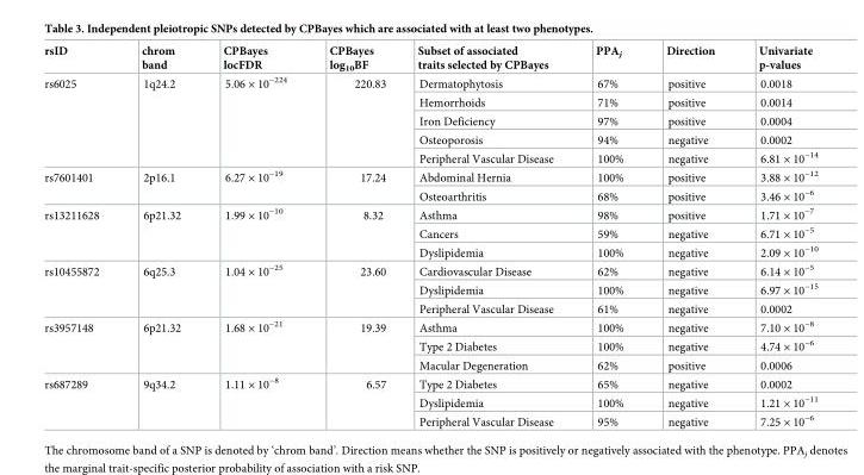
<table><thead><tr><td>rsID</td><td>chrom band</td><td>CPBayes locFDR</td><td>CPBayes log<sub>10</sub>BF</td><td>Subset of associated traits selected by CPBayes</td><td>PPA<sub>j</sub></td><td>Direction</td><td>Univariate p-values</td></tr></thead><tbody><tr><td rowspan="5">rs6025</td><td rowspan="5">1q24.2</td><td rowspan="5">5.06 × 10<sup>−224</sup></td><td rowspan="5">220.83</td><td>Dermatophytosis</td><td>67%</td><td>positive</td><td>0.0018</td></tr><tr><td>Hemorrhoids</td><td>71%</td><td>positive</td><td>0.0014</td></tr><tr><td>Iron Deficiency</td><td>97%</td><td>positive</td><td>0.0004</td></tr><tr><td>Osteoporosis</td><td>94%</td><td>negative</td><td>0.0002</td></tr><tr><td>Peripheral Vascular Disease</td><td>100%</td><td>negative</td><td>6.81 × 10<sup>−14</sup></td></tr><tr><td rowspan="2">rs7601401</td><td rowspan="2">2p16.1</td><td rowspan="2">6.27 × 10<sup>−19</sup></td><td rowspan="2">17.24</td><td>Abdominal Hernia</td><td>100%</td><td>positive</td><td>3.88 × 10<sup>−12</sup></td></tr><tr><td>Osteoarthritis</td><td>68%</td><td>positive</td><td>3.46 × 10<sup>−6</sup></td></tr><tr><td rowspan="3">rs13211628</td><td rowspan="3">6p21.32</td><td rowspan="3">1.99 × 10<sup>−10</sup></td><td rowspan="3">8.32</td><td>Asthma</td><td>98%</td><td>positive</td><td>1.71 × 10<sup>−7</sup></td></tr><tr><td>Cancers</td><td>59%</td><td>negative</td><td>6.71 × 10<sup>−5</sup></td></tr><tr><td>Dyslipidemia</td><td>100%</td><td>negative</td><td>2.09 × 10<sup>−10</sup></td></tr><tr><td rowspan="3">rs10455872</td><td rowspan="3">6q25.3</td><td rowspan="3">1.04 × 10<sup>−25</sup></td><td rowspan="3">23.60</td><td>Cardiovascular Disease</td><td>62%</td><td>negative</td><td>6.14 × 10<sup>−5</sup></td></tr><tr><td>Dyslipidemia</td><td>100%</td><td>negative</td><td>6.97 × 10<sup>−15</sup></td></tr><tr><td>Peripheral Vascular Disease</td><td>61%</td><td>negative</td><td>0.0002</td></tr><tr><td rowspan="3">rs3957148</td><td rowspan="3">6p21.32</td><td rowspan="3">1.68 × 10<sup>−21</sup></td><td rowspan="3">19.39</td><td>Asthma</td><td>100%</td><td>negative</td><td>7.10 × 10<sup>−8</sup></td></tr><tr><td>Type 2 Diabetes</td><td>100%</td><td>negative</td><td>4.74 × 10<sup>−6</sup></td></tr><tr><td>Macular Degeneration</td><td>62%</td><td>positive</td><td>0.0006</td></tr><tr><td rowspan="3">rs687289</td><td rowspan="3">9q34.2</td><td rowspan="3">1.11 × 10<sup>−8</sup></td><td rowspan="3">6.57</td><td>Type 2 Diabetes</td><td>65%</td><td>negative</td><td>0.0002</td></tr><tr><td>Dyslipidemia</td><td>100%</td><td>negative</td><td>1.21 × 10<sup>−11</sup></td></tr><tr><td>Peripheral Vascular Disease</td><td>95%</td><td>negative</td><td>7.25 × 10<sup>−6</sup></td></tr></tbody></table>